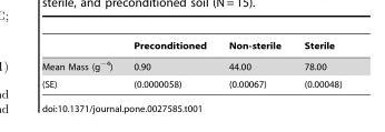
<table><thead><tr><td></td><td>Preconditioned</td><td>Non-sterile</td><td>Sterile</td></tr></thead><tbody><tr><td>Mean Mass (g<sup>−4</sup>)</td><td>0.90</td><td>44.00</td><td>78.00</td></tr><tr><td>(SE)</td><td>(0.0000058)</td><td>(0.00067)</td><td>(0.00048)</td></tr></tbody></table>